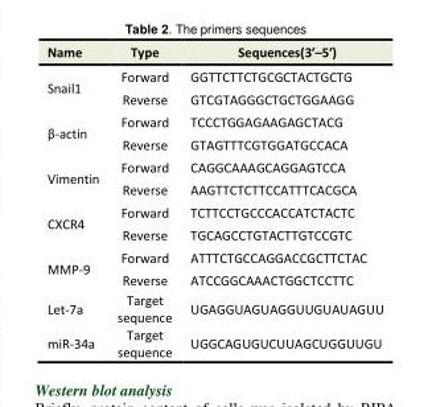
<table><tbody><tr><td>Name</td><td>Type</td><td>Sequences(3ʹ–5ʹ)</td></tr><tr><td rowspan="2">Snail1</td><td>Forward</td><td>GGTTCTTCTGCGCTACTGCTG</td></tr><tr><td>Reverse</td><td>GTCGTAGGGCTGCTGGAAGG</td></tr><tr><td rowspan="2">β-actin</td><td>Forward</td><td>TCCCTGGAGAAGAGCTACG</td></tr><tr><td>Reverse</td><td>GTAGTTTCGTGGATGCCACA</td></tr><tr><td rowspan="2">Vimentin</td><td>Forward</td><td>CAGGCAAAGCAGGAGTCCA</td></tr><tr><td>Reverse</td><td>AAGTTCTCTTCCATTTCACGCA</td></tr><tr><td rowspan="2">CXCR4</td><td>Forward</td><td>TCTTCCTGCCCACCATCTACTC</td></tr><tr><td>Reverse</td><td>TGCAGCCTGTACTTGTCCGTC</td></tr><tr><td rowspan="2">MMP-9</td><td>Forward</td><td>ATTTCTGCCAGGACCGCTTCTAC</td></tr><tr><td>Reverse</td><td>ATCCGGCAAACTGGCTCCTTC</td></tr><tr><td>Let-7a</td><td>Target sequence</td><td>UGAGGUAGUAGGUUGUAUAGUU</td></tr><tr><td>miR-34a</td><td>Target sequence</td><td>UGGCAGUGUCUUAGCUGGUUGU</td></tr></tbody></table>